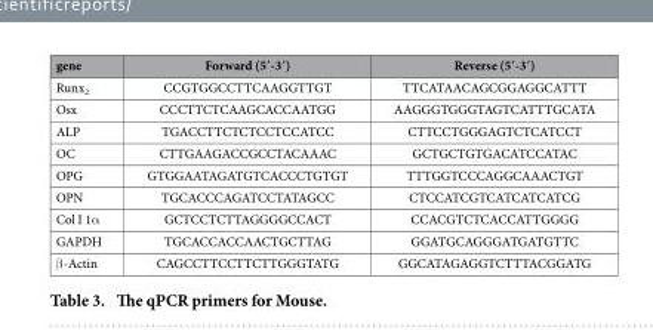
<table><thead><tr><td>gene</td><td>Forward (5′-3′)</td><td>Reverse (5′-3′)</td></tr></thead><tbody><tr><td>Runx<sub>2</sub></td><td>CCGTGGCCTTCAAGGTTGT</td><td>TTCATAACAGCGGAGGCATTT</td></tr><tr><td>Osx</td><td>CCCTTCTCAAGCACCAATGG</td><td>AAGGGTGGGTAGTCATTTGCATA</td></tr><tr><td>ALP</td><td>TGACCTTCTCTCCTCCATCC</td><td>CTTCCTGGGAGTCTCATCCT</td></tr><tr><td>OC</td><td>CTTGAAGACCGCCTACAAAC</td><td>GCTGCTGTGACATCCATAC</td></tr><tr><td>OPG</td><td>GTGGAATAGATGTCACCCTGTGT</td><td>TTTGGTCCCAGGCAAACTGT</td></tr><tr><td>OPN</td><td>TGCACCCAGATCCTATAGCC</td><td>CTCCATCGTCATCATCATCG</td></tr><tr><td>Col I 1α</td><td>GCTCCTCTTAGGGGCCACT</td><td>CCACGTCTCACCATTGGGG</td></tr><tr><td>GAPDH</td><td>TGCACCACCAACTGCTTAG</td><td>GGATGCAGGGATGATGTTC</td></tr><tr><td>β -Actin</td><td>CAGCCTTCCTTCTTGGGTATG</td><td>GGCATAGAGGTCTTTACGGATG</td></tr></tbody></table>